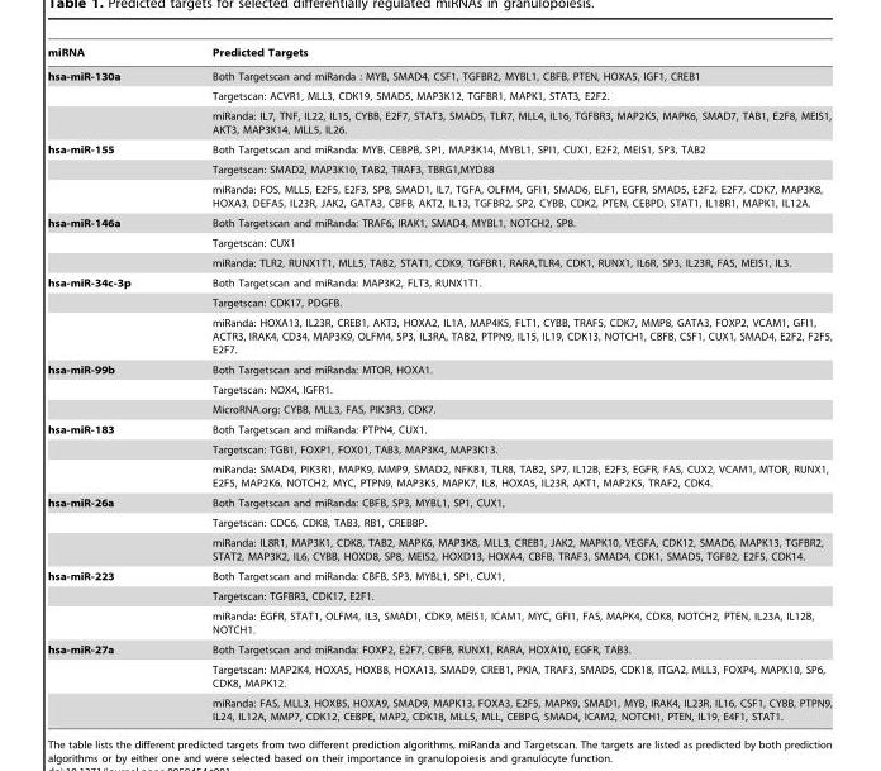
<table><thead><tr><td>miRNA</td><td>Predicted Targets</td></tr></thead><tbody><tr><td rowspan="3">hsa-miR-130a</td><td>Both Targetscan and miRanda : MYB, SMAD4, CSF1, TGFBR2, MYBL1, CBFB, PTEN, HOXA5, IGF1, CREB1</td></tr><tr><td>Targetscan: ACVR1, MLL3, CDK19, SMAD5, MAP3K12, TGFBR1, MAPK1, STAT3, E2F2.</td></tr><tr><td>miRanda: IL7, TNF, IL22, IL15, CYBB, E2F7, STAT3, SMAD5, TLR7, MLL4, IL16, TGFBR3, MAP2K5, MAPK6, SMAD7, TAB1, E2F8, MEIS1, AKT3, MAP3K14, MLL5, IL26.</td></tr><tr><td rowspan="3">hsa-miR-155</td><td>Both Targetscan and miRanda: MYB, CEBPB, SP1, MAP3K14, MYBL1, SPI1, CUX1, E2F2, MEIS1, SP3, TAB2</td></tr><tr><td>Targetscan: SMAD2, MAP3K10, TAB2, TRAF3, TBRG1,MYD88</td></tr><tr><td>miRanda: FOS, MLL5, E2F5, E2F3, SP8, SMAD1, IL7, TGFA, OLFM4, GFI1, SMAD6, ELF1, EGFR, SMAD5, E2F2, E2F7, CDK7, MAP3K8, HOXA3, DEFA5, IL23R, JAK2, GATA3, CBFB, AKT2, IL13, TGFBR2, SP2, CYBB, CDK2, PTEN, CEBPD, STAT1, IL18R1, MAPK1, IL12A.</td></tr><tr><td rowspan="3">hsa-miR-146a</td><td>Both Targetscan and miRanda: TRAF6, IRAK1, SMAD4, MYBL1, NOTCH2, SP8.</td></tr><tr><td>Targetscan: CUX1</td></tr><tr><td>miRanda: TLR2, RUNX1T1, MLL5, TAB2, STAT1, CDK9, TGFBR1, RARA,TLR4, CDK1, RUNX1, IL6R, SP3, IL23R, FAS, MEIS1, IL3.</td></tr><tr><td rowspan="3">hsa-miR-34c-3p</td><td>Both Targetscan and miRanda: MAP3K2, FLT3, RUNX1T1.</td></tr><tr><td>Targetscan: CDK17, PDGFB.</td></tr><tr><td>miRanda: HOXA13, IL23R, CREB1, AKT3, HOXA2, IL1A, MAP4K5, FLT1, CYBB, TRAF5, CDK7, MMP8, GATA3, FOXP2, VCAM1, GFI1, ACTR3, IRAK4, CD34, MAP3K9, OLFM4, SP3, IL3RA, TAB2, PTPN9, IL15, IL19, CDK13, NOTCH1, CBFB, CSF1, CUX1, SMAD4, E2F2, F2F5, E2F7.</td></tr><tr><td rowspan="3">hsa-miR-99b</td><td>Both Targetscan and miRanda: MTOR, HOXA1.</td></tr><tr><td>Targetscan: NOX4, IGFR1.</td></tr><tr><td>MicroRNA.org: CYBB, MLL3, FAS, PIK3R3, CDK7.</td></tr><tr><td rowspan="3">hsa-miR-183</td><td>Both Targetscan and miRanda: PTPN4, CUX1.</td></tr><tr><td>Targetscan: TGB1, FOXP1, FOX01, TAB3, MAP3K4, MAP3K13.</td></tr><tr><td>miRanda: SMAD4, PIK3R1, MAPK9, MMP9, SMAD2, NFKB1, TLR8, TAB2, SP7, IL12B, E2F3, EGFR, FAS, CUX2, VCAM1, MTOR, RUNX1, E2F5, MAP2K6, NOTCH2, MYC, PTPN9, MAP3K5, MAPK7, IL8, HOXA5, IL23R, AKT1, MAP2K5, TRAF2, CDK4.</td></tr><tr><td rowspan="3">hsa-miR-26a</td><td>Both Targetscan and miRanda: CBFB, SP3, MYBL1, SP1, CUX1,</td></tr><tr><td>Targetscan: CDC6, CDK8, TAB3, RB1, CREBBP.</td></tr><tr><td>miRanda: IL8R1, MAP3K1, CDK8, TAB2, MAPK6, MAP3K8, MLL3, CREB1, JAK2, MAPK10, VEGFA, CDK12, SMAD6, MAPK13, TGFBR2, STAT2, MAP3K2, IL6, CYBB, HOXD8, SP8, MEIS2, HOXD13, HOXA4, CBFB, TRAF3, SMAD4, CDK1, SMAD5, TGFB2, E2F5, CDK14.</td></tr><tr><td rowspan="3">hsa-miR-223</td><td>Both Targetscan and miRanda: CBFB, SP3, MYBL1, SP1, CUX1,</td></tr><tr><td>Targetscan: TGFBR3, CDK17, E2F1.</td></tr><tr><td>miRanda: EGFR, STAT1, OLFM4, IL3, SMAD1, CDK9, MEIS1, ICAM1, MYC, GFI1, FAS, MAPK4, CDK8, NOTCH2, PTEN, IL23A, IL12B, NOTCH1.</td></tr><tr><td rowspan="3">hsa-miR-27a</td><td>Both Targetscan and miRanda: FOXP2, E2F7, CBFB, RUNX1, RARA, HOXA10, EGFR, TAB3.</td></tr><tr><td>Targetscan: MAP2K4, HOXA5, HOXB8, HOXA13, SMAD9, CREB1, PKIA, TRAF3, SMAD5, CDK18, ITGA2, MLL3, FOXP4, MAPK10, SP6, CDK8, MAPK12.</td></tr><tr><td>miRanda: FAS, MLL3, HOXB5, HOXA9, SMAD9, MAPK13, FOXA3, E2F5, MAPK9, SMAD1, MYB, IRAK4, IL23R, IL16, CSF1, CYBB, PTPN9, IL24, IL12A, MMP7, CDK12, CEBPE, MAP2, CDK18, MLL5, MLL, CEBPG, SMAD4, ICAM2, NOTCH1, PTEN, IL19, E4F1, STAT1.</td></tr></tbody></table>